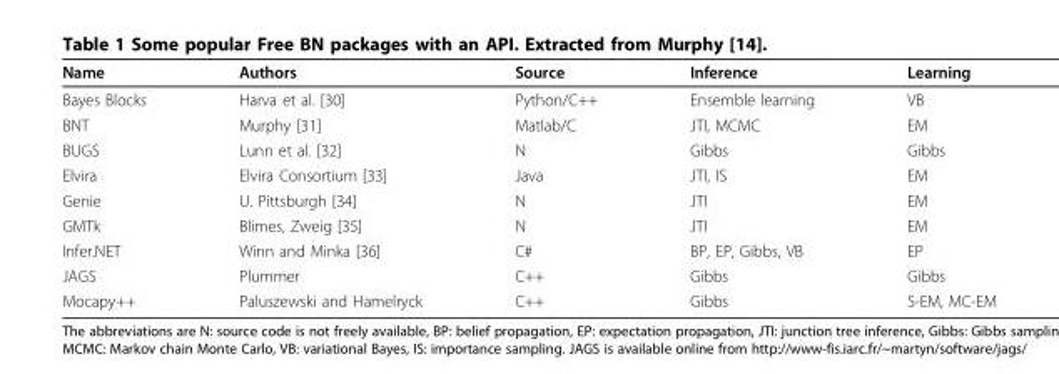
<table><thead><tr><td>Name</td><td>Authors</td><td>Source</td><td>Inference</td><td>Learning</td></tr></thead><tbody><tr><td>Bayes Blocks</td><td>Harva et al. [30]</td><td>Python/C++</td><td>Ensemble learning</td><td>VB</td></tr><tr><td>BNT</td><td>Murphy [31]</td><td>Matlab/C</td><td>JTI, MCMC</td><td>EM</td></tr><tr><td>BUGS</td><td>Lunn et al. [32]</td><td>N</td><td>Gibbs</td><td>Gibbs</td></tr><tr><td>Elvira</td><td>Elvira Consortium [33]</td><td>Java</td><td>JTI, IS</td><td>EM</td></tr><tr><td>Genie</td><td>U. Pittsburgh [34]</td><td>N</td><td>JTI</td><td>EM</td></tr><tr><td>GMTk</td><td>Blimes, Zweig [35]</td><td>N</td><td>JTI</td><td>EM</td></tr><tr><td>Infer.NET</td><td>Winn and Minka [36]</td><td>C#</td><td>BP, EP, Gibbs, VB</td><td>EP</td></tr><tr><td>JAGS</td><td>Plummer</td><td>C++</td><td>Gibbs</td><td>Gibbs</td></tr><tr><td>Mocapy++</td><td>Paluszewski and Hamelryck</td><td>C++</td><td>Gibbs</td><td>S-EM, MC-EM</td></tr></tbody></table>